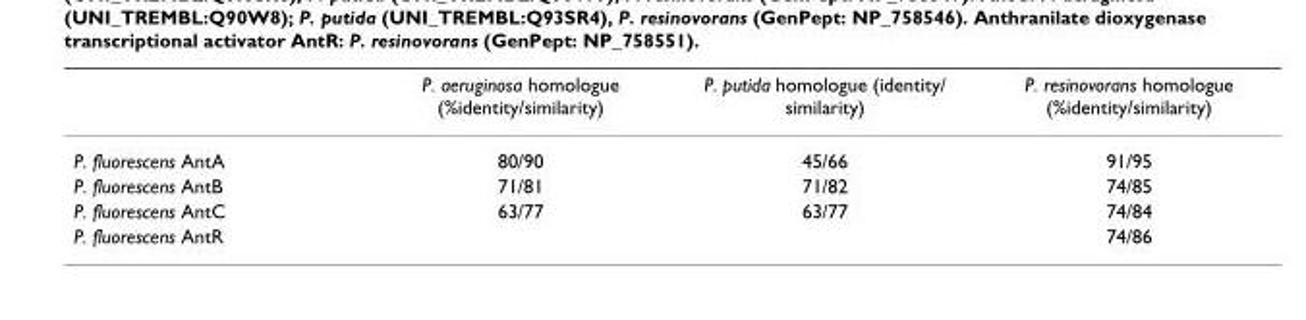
<table><thead><tr><td></td><td>P. aeruginosa homologue (%identity/similarity)</td><td>P. putida homologue (identity/ similarity)</td><td>P. resinovorans homologue (%identity/similarity)</td></tr></thead><tbody><tr><td>P. fluorescens AntA</td><td>80/90</td><td>45/66</td><td>91/95</td></tr><tr><td>P. fluorescens AntB</td><td>71/81</td><td>71/82</td><td>74/85</td></tr><tr><td>P. fluorescens AntC</td><td>63/77</td><td>63/77</td><td>74/84</td></tr><tr><td>P. fluorescens AntR</td><td></td><td></td><td>74/86</td></tr></tbody></table>